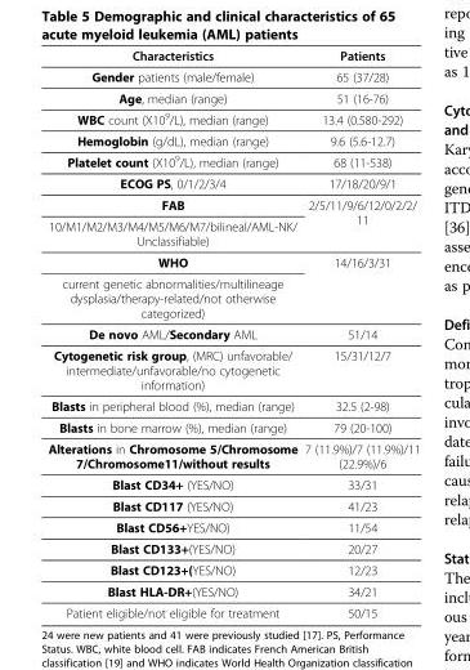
<table><thead><tr><td>Characteristics</td><td>Patients</td></tr></thead><tbody><tr><td>Gender patients (male/female)</td><td>65 (37/28)</td></tr><tr><td>Age, median (range)</td><td>51 (16-76)</td></tr><tr><td>WBC count (X10<sup>9</sup>/L), median (range)</td><td>13.4 (0.580-292)</td></tr><tr><td>Hemoglobin (g/dL), median (range)</td><td>9.6 (5.6-12.7)</td></tr><tr><td>Platelet count (X10<sup>9</sup>/L), median (range)</td><td>68 (11-538)</td></tr><tr><td>ECOG PS, 0/1/2/3/4</td><td>17/18/20/9/1</td></tr><tr><td>FAB</td><td rowspan="2">2/5/11/9/6/12/0/2/2/ 11</td></tr><tr><td>10/M1/M2/M3/M4/M5/M6/M7/bilineal/AML-NK/ Unclassifiable)</td></tr><tr><td>WHO</td><td rowspan="2">14/16/3/31</td></tr><tr><td>current genetic abnormalities/multilineage dysplasia/therapy-related/not otherwise categorized)</td></tr><tr><td>De novo AML/Secondary AML</td><td>51/14</td></tr><tr><td>Cytogenetic risk group, (MRC) unfavorable/ intermediate/unfavorable/no cytogenetic information)</td><td>15/31/12/7</td></tr><tr><td>Blasts in peripheral blood (%), median (range)</td><td>32.5 (2-98)</td></tr><tr><td>Blasts in bone marrow (%), median (range)</td><td>79 (20-100)</td></tr><tr><td>Alterations in Chromosome 5/Chromosome 7/Chromosome11/without results</td><td>7 (11.9%)/7 (11.9%)/11 (22.9%)/6</td></tr><tr><td>Blast CD34+ (YES/NO)</td><td>33/31</td></tr><tr><td>Blast CD117 (YES/NO)</td><td>41/23</td></tr><tr><td>Blast CD56+YES/NO)</td><td>11/54</td></tr><tr><td>Blast CD133+(YES/NO)</td><td>20/27</td></tr><tr><td>Blast CD123+(YES/NO)</td><td>12/23</td></tr><tr><td>Blast HLA-DR+(YES/NO)</td><td>34/21</td></tr><tr><td>Patient eligible/not eligible for treatment</td><td>50/15</td></tr></tbody></table>